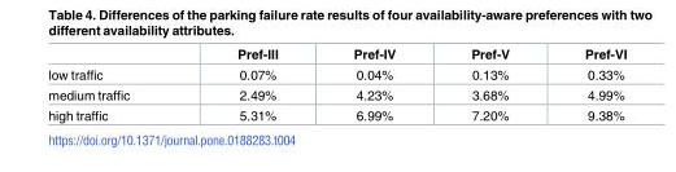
<table><thead><tr><td></td><td>Pref-III</td><td>Pref-IV</td><td>Pref-V</td><td>Pref-VI</td></tr></thead><tbody><tr><td>low traffic</td><td>0.07%</td><td>0.04%</td><td>0.13%</td><td>0.33%</td></tr><tr><td>medium traffic</td><td>2.49%</td><td>4.23%</td><td>3.68%</td><td>4.99%</td></tr><tr><td>high traffic</td><td>5.31%</td><td>6.99%</td><td>7.20%</td><td>9.38%</td></tr></tbody></table>